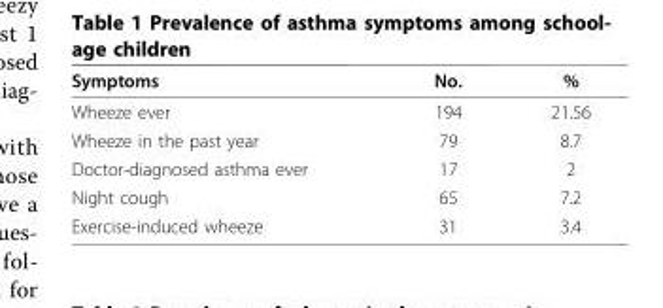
<table><thead><tr><td>Symptoms</td><td>No.</td><td>%</td></tr></thead><tbody><tr><td>Wheeze ever</td><td>194</td><td>21.56</td></tr><tr><td>Wheeze in the past year</td><td>79</td><td>8.7</td></tr><tr><td>Doctor-diagnosed asthma ever</td><td>17</td><td>2</td></tr><tr><td>Night cough</td><td>65</td><td>7.2</td></tr><tr><td>Exercise-induced wheeze</td><td>31</td><td>3.4</td></tr></tbody></table>